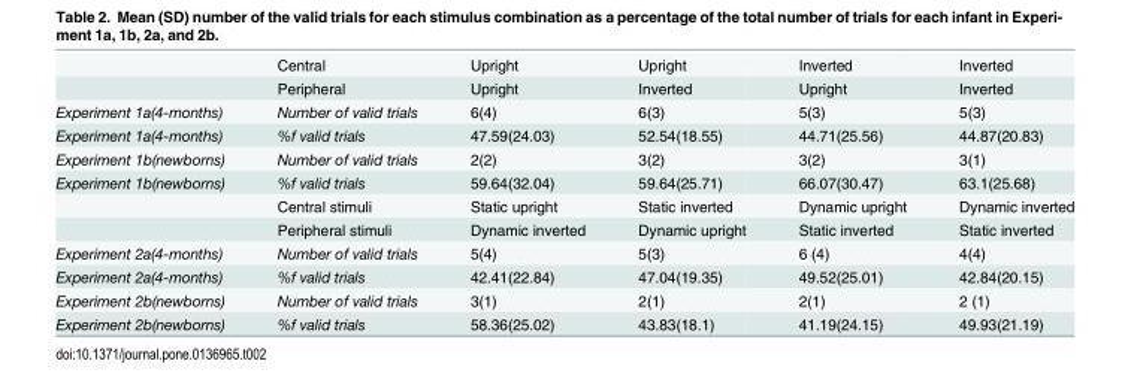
<table><thead><tr><td></td><td>Central</td><td>Upright</td><td>Upright</td><td>Inverted</td><td>Inverted</td></tr></thead><tbody><tr><td></td><td>Peripheral</td><td>Upright</td><td>Inverted</td><td>Upright</td><td>Inverted</td></tr><tr><td>Experiment 1a(4-months)</td><td>Number of valid trials</td><td>6(4)</td><td>6(3)</td><td>5(3)</td><td>5(3)</td></tr><tr><td>Experiment 1a(4-months)</td><td>%f valid trials</td><td>47.59(24.03)</td><td>52.54(18.55)</td><td>44.71(25.56)</td><td>44.87(20.83)</td></tr><tr><td>Experiment 1b(newborns)</td><td>Number of valid trials</td><td>2(2)</td><td>3(2)</td><td>3(2)</td><td>3(1)</td></tr><tr><td rowspan="3">Experiment 1b(newborns)</td><td>%f valid trials</td><td>59.64(32.04)</td><td>59.64(25.71)</td><td>66.07(30.47)</td><td>63.1(25.68)</td></tr><tr><td>Central stimuli</td><td>Static upright</td><td>Static inverted</td><td>Dynamic upright</td><td>Dynamic inverted</td></tr><tr><td>Peripheral stimuli</td><td>Dynamic inverted</td><td>Dynamic upright</td><td>Static inverted</td><td>Static inverted</td></tr><tr><td>Experiment 2a(4-months)</td><td>Number of valid trials</td><td>5(4)</td><td>5(3)</td><td>6 (4)</td><td>4(4)</td></tr><tr><td>Experiment 2a(4-months)</td><td>%f valid trials</td><td>42.41(22.84)</td><td>47.04(19.35)</td><td>49.52(25.01)</td><td>42.84(20.15)</td></tr><tr><td>Experiment 2b(newborns)</td><td>Number of valid trials</td><td>3(1)</td><td>2(1)</td><td>2(1)</td><td>2 (1)</td></tr><tr><td>Experiment 2b(newborns)</td><td>%f valid trials</td><td>58.36(25.02)</td><td>43.83(18.1)</td><td>41.19(24.15)</td><td>49.93(21.19)</td></tr></tbody></table>